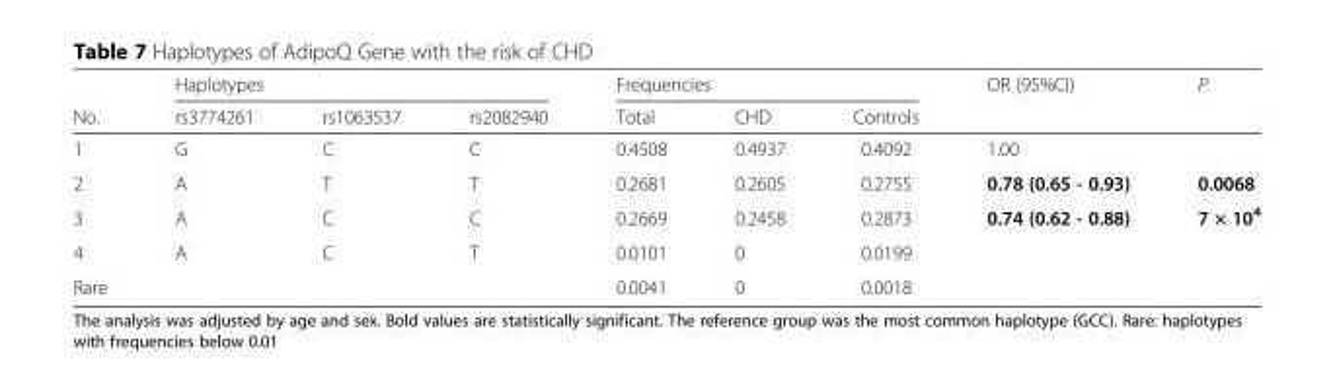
<table><thead><tr><td rowspan="2">No.</td><td colspan="3">Haplotypes</td><td colspan="3">Frequencies</td><td rowspan="2">OR (95%CI)</td><td rowspan="2">P</td></tr><tr><td>rs3774261</td><td>rs1063537</td><td>rs2082940</td><td>Total</td><td>CHD</td><td>Controls</td></tr></thead><tbody><tr><td>1</td><td>G</td><td>C</td><td>C</td><td>0.4508</td><td>0.4937</td><td>0.4092</td><td>1.00</td><td></td></tr><tr><td>2</td><td>A</td><td>T</td><td>T</td><td>0.2681</td><td>0.2605</td><td>0.2755</td><td>0.78 (0.65 - 0.93)</td><td>0.0068</td></tr><tr><td>3</td><td>A</td><td>C</td><td>C</td><td>0.2669</td><td>0.2458</td><td>0.2873</td><td>0.74 (0.62 - 0.88)</td><td>7 × 10<sup>4</sup></td></tr><tr><td>4</td><td>A</td><td>C</td><td>T</td><td>0.0101</td><td>0</td><td>0.0199</td><td></td><td></td></tr><tr><td>Rare</td><td></td><td></td><td></td><td>0.0041</td><td>0</td><td>0.0018</td><td></td><td></td></tr></tbody></table>